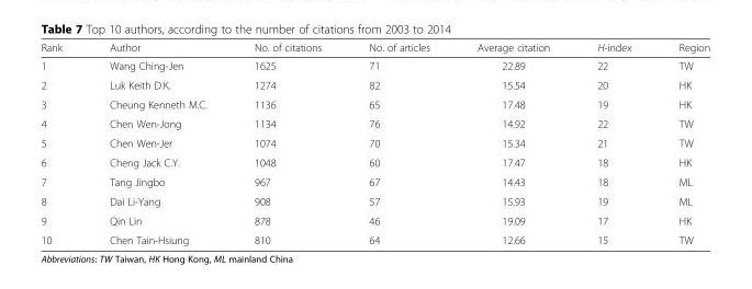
<table><thead><tr><td>Rank</td><td>Author</td><td>No. of citations</td><td>No. of articles</td><td>Average citation</td><td>H-index</td><td>Region</td></tr></thead><tbody><tr><td>1</td><td>Wang Ching-Jen</td><td>1625</td><td>71</td><td>22.89</td><td>22</td><td>TW</td></tr><tr><td>2</td><td>Luk Keith D.K.</td><td>1274</td><td>82</td><td>15.54</td><td>20</td><td>HK</td></tr><tr><td>3</td><td>Cheung Kenneth M.C.</td><td>1136</td><td>65</td><td>17.48</td><td>19</td><td>HK</td></tr><tr><td>4</td><td>Chen Wen-Jong</td><td>1134</td><td>76</td><td>14.92</td><td>22</td><td>TW</td></tr><tr><td>5</td><td>Chen Wen-Jer</td><td>1074</td><td>70</td><td>15.34</td><td>21</td><td>TW</td></tr><tr><td>6</td><td>Cheng Jack C.Y.</td><td>1048</td><td>60</td><td>17.47</td><td>18</td><td>HK</td></tr><tr><td>7</td><td>Tang Jingbo</td><td>967</td><td>67</td><td>14.43</td><td>18</td><td>ML</td></tr><tr><td>8</td><td>Dai Li-Yang</td><td>908</td><td>57</td><td>15.93</td><td>19</td><td>ML</td></tr><tr><td>9</td><td>Qin Lin</td><td>878</td><td>46</td><td>19.09</td><td>17</td><td>HK</td></tr><tr><td>10</td><td>Chen Tain-Hsiung</td><td>810</td><td>64</td><td>12.66</td><td>15</td><td>TW</td></tr></tbody></table>